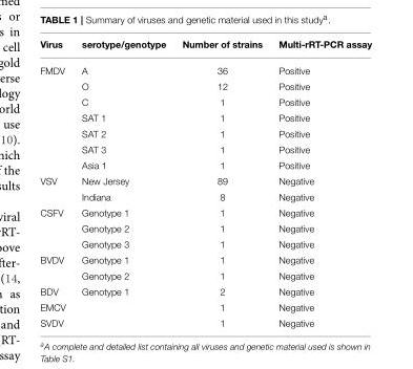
<table><thead><tr><td>Virus</td><td>serotype/genotype</td><td>Number of strains</td><td>Multi-rRT-PCR assay</td></tr></thead><tbody><tr><td rowspan="7">FMDV</td><td>A</td><td>36</td><td>Positive</td></tr><tr><td>O</td><td>12</td><td>Positive</td></tr><tr><td>C</td><td>1</td><td>Positive</td></tr><tr><td>SAT 1</td><td>1</td><td>Positive</td></tr><tr><td>SAT 2</td><td>1</td><td>Positive</td></tr><tr><td>SAT 3</td><td>1</td><td>Positive</td></tr><tr><td>Asia 1</td><td>1</td><td>Positive</td></tr><tr><td rowspan="2">VSV</td><td>New Jersey</td><td>89</td><td>Negative</td></tr><tr><td>Indiana</td><td>8</td><td>Negative</td></tr><tr><td rowspan="3">CSFV</td><td>Genotype 1</td><td>1</td><td>Negative</td></tr><tr><td>Genotype 2</td><td>1</td><td>Negative</td></tr><tr><td>Genotype 3</td><td>1</td><td>Negative</td></tr><tr><td rowspan="2">BVDV</td><td>Genotype 1</td><td>1</td><td>Negative</td></tr><tr><td>Genotype 2</td><td>1</td><td>Negative</td></tr><tr><td>BDV</td><td>Genotype 1</td><td>2</td><td>Negative</td></tr><tr><td>EMCV</td><td></td><td>1</td><td>Negative</td></tr><tr><td>SVDV</td><td></td><td>1</td><td>Negative</td></tr></tbody></table>